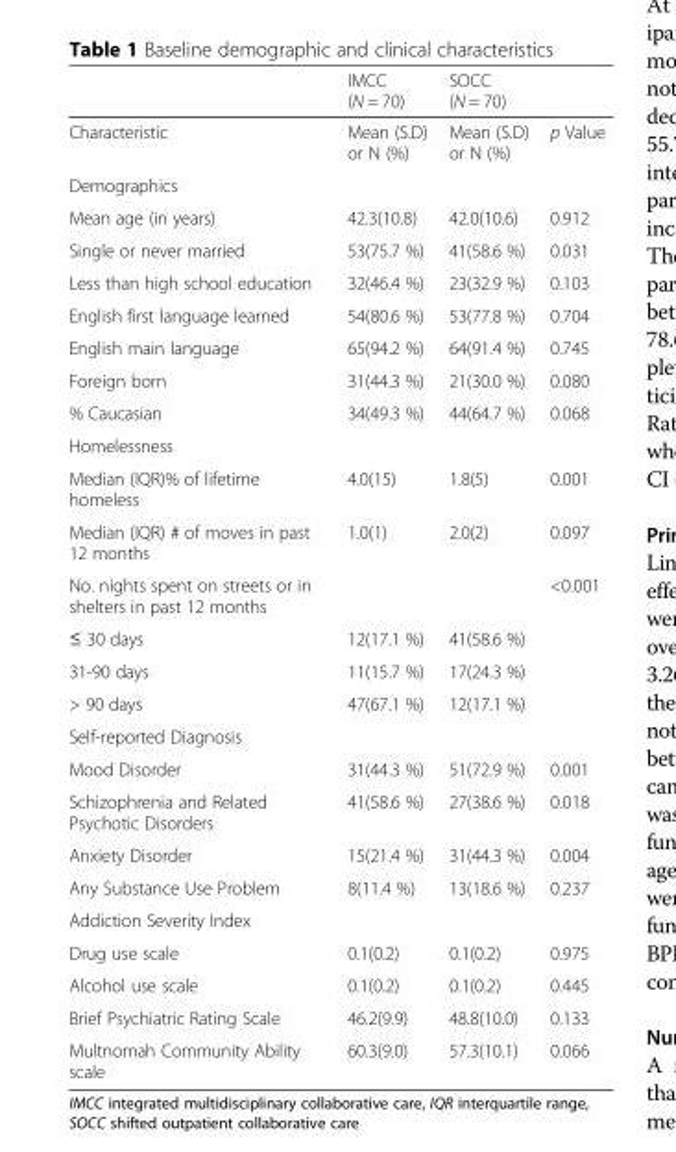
<table><thead><tr><td></td><td>IMCC (N = 70)</td><td>SOCC (N = 70)</td><td></td></tr></thead><tbody><tr><td>Characteristic</td><td>Mean (S.D) or N (%)</td><td>Mean (S.D) or N (%)</td><td>p Value</td></tr><tr><td colspan="4">Demographics</td></tr><tr><td>Mean age (in years)</td><td>42.3(10.8)</td><td>42.0(10.6)</td><td>0.912</td></tr><tr><td>Single or never married</td><td>53(75.7 %)</td><td>41(58.6 %)</td><td>0.031</td></tr><tr><td>Less than high school education</td><td>32(46.4 %)</td><td>23(32.9 %)</td><td>0.103</td></tr><tr><td>English first language learned</td><td>54(80.6 %)</td><td>53(77.8 %)</td><td>0.704</td></tr><tr><td>English main language</td><td>65(94.2 %)</td><td>64(91.4 %)</td><td>0.745</td></tr><tr><td>Foreign born</td><td>31(44.3 %)</td><td>21(30.0 %)</td><td>0.080</td></tr><tr><td>% Caucasian</td><td>34(49.3 %)</td><td>44(64.7 %)</td><td>0.068</td></tr><tr><td colspan="4">Homelessness</td></tr><tr><td>Median (IQR)% of lifetime homeless</td><td>4.0(15)</td><td>1.8(5)</td><td>0.001</td></tr><tr><td>Median (IQR) # of moves in past 12 months</td><td>1.0(1)</td><td>2.0(2)</td><td>0.097</td></tr><tr><td>No. nights spent on streets or in shelters in past 12 months</td><td></td><td></td><td>&lt;0.001</td></tr><tr><td>≤ 30 days</td><td>12(17.1 %)</td><td>41(58.6 %)</td><td></td></tr><tr><td>31-90 days</td><td>11(15.7 %)</td><td>17(24.3 %)</td><td></td></tr><tr><td>&gt; 90 days</td><td>47(67.1 %)</td><td>12(17.1 %)</td><td></td></tr><tr><td colspan="4">Self-reported Diagnosis</td></tr><tr><td>Mood Disorder</td><td>31(44.3 %)</td><td>51(72.9 %)</td><td>0.001</td></tr><tr><td>Schizophrenia and Related Psychotic Disorders</td><td>41(58.6 %)</td><td>27(38.6 %)</td><td>0.018</td></tr><tr><td>Anxiety Disorder</td><td>15(21.4 %)</td><td>31(44.3 %)</td><td>0.004</td></tr><tr><td>Any Substance Use Problem</td><td>8(11.4 %)</td><td>13(18.6 %)</td><td>0.237</td></tr><tr><td colspan="4">Addiction Severity Index</td></tr><tr><td>Drug use scale</td><td>0.1(0.2)</td><td>0.1(0.2)</td><td>0.975</td></tr><tr><td>Alcohol use scale</td><td>0.1(0.2)</td><td>0.1(0.2)</td><td>0.445</td></tr><tr><td>Brief Psychiatric Rating Scale</td><td>46.2(9.9)</td><td>48.8(10.0)</td><td>0.133</td></tr><tr><td>Multnomah Community Ability scale</td><td>60.3(9.0)</td><td>57.3(10.1)</td><td>0.066</td></tr></tbody></table>